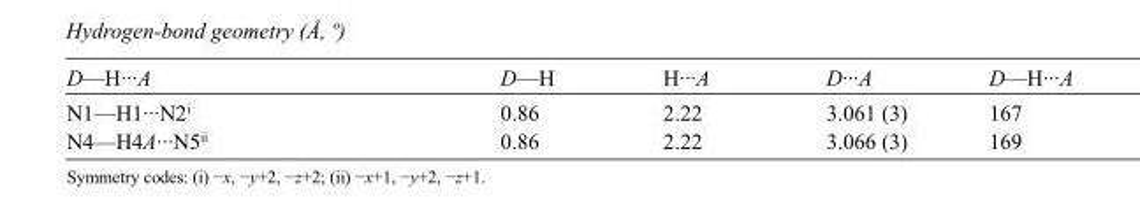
<table><tbody><tr><td>D—H···A</td><td>D—H</td><td>H···A</td><td>D···A</td><td>D—H···A</td></tr><tr><td>N1—H1···N2<sup>i</sup></td><td>0.86</td><td>2.22</td><td>3.061 (3)</td><td>167</td></tr><tr><td>N4—H4A···N5<sup>ii</sup></td><td>0.86</td><td>2.22</td><td>3.066 (3)</td><td>169</td></tr></tbody></table>